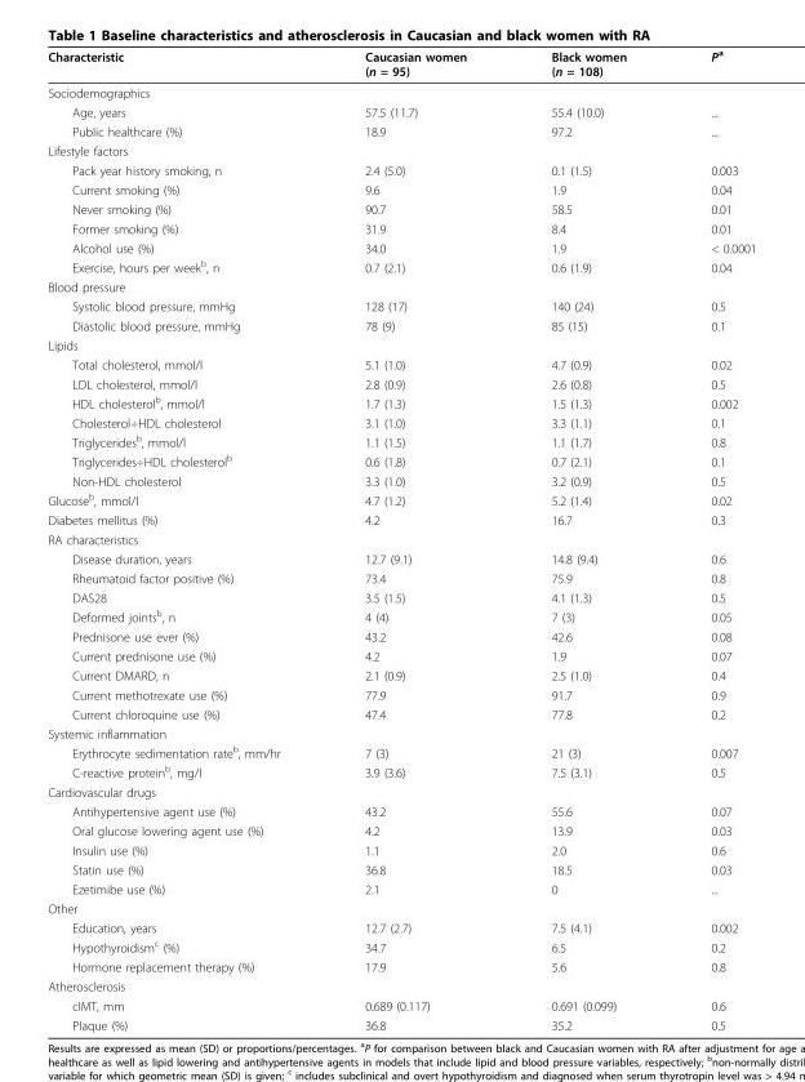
<table><thead><tr><td>Characteristic</td><td>Caucasian women (n = 95)</td><td>Black women (n = 108)</td><td>P<sup>a</sup></td></tr></thead><tbody><tr><td colspan="4">Sociodemographics</td></tr><tr><td>Age, years</td><td>57.5 (11.7)</td><td>55.4 (10.0)</td><td>...</td></tr><tr><td>Public healthcare (%)</td><td>18.9</td><td>97.2</td><td>...</td></tr><tr><td colspan="4">Lifestyle factors</td></tr><tr><td>Pack year history smoking, n</td><td>2.4 (5.0)</td><td>0.1 (1.5)</td><td>0.003</td></tr><tr><td>Current smoking (%)</td><td>9.6</td><td>1.9</td><td>0.04</td></tr><tr><td>Never smoking (%)</td><td>90.7</td><td>58.5</td><td>0.01</td></tr><tr><td>Former smoking (%)</td><td>31.9</td><td>8.4</td><td>0.01</td></tr><tr><td>Alcohol use (%)</td><td>34.0</td><td>1.9</td><td>&lt; 0.0001</td></tr><tr><td>Exercise, hours per week<sup>b</sup>, n</td><td>0.7 (2.1)</td><td>0.6 (1.9)</td><td>0.04</td></tr><tr><td colspan="4">Blood pressure</td></tr><tr><td>Systolic blood pressure, mmHg</td><td>128 (17)</td><td>140 (24)</td><td>0.5</td></tr><tr><td>Diastolic blood pressure, mmHg</td><td>78 (9)</td><td>85 (15)</td><td>0.1</td></tr><tr><td colspan="4">Lipids</td></tr><tr><td>Total cholesterol, mmol/l</td><td>5.1 (1.0)</td><td>4.7 (0.9)</td><td>0.02</td></tr><tr><td>LDL cholesterol, mmol/l</td><td>2.8 (0.9)</td><td>2.6 (0.8)</td><td>0.5</td></tr><tr><td>HDL cholesterol<sup>b</sup>, mmol/l</td><td>1.7 (1.3)</td><td>1.5 (1.3)</td><td>0.002</td></tr><tr><td>Cholesterol÷HDL cholesterol</td><td>3.1 (1.0)</td><td>3.3 (1.1)</td><td>0.1</td></tr><tr><td>Triglycerides<sup>b</sup>, mmol/l</td><td>1.1 (1.5)</td><td>1.1 (1.7)</td><td>0.8</td></tr><tr><td>Triglycerides÷HDL cholesterol<sup>b</sup></td><td>0.6 (1.8)</td><td>0.7 (2.1)</td><td>0.1</td></tr><tr><td>Non-HDL cholesterol</td><td>3.3 (1.0)</td><td>3.2 (0.9)</td><td>0.5</td></tr><tr><td>Glucose<sup>b</sup>, mmol/l</td><td>4.7 (1.2)</td><td>5.2 (1.4)</td><td>0.02</td></tr><tr><td>Diabetes mellitus (%)</td><td>4.2</td><td>16.7</td><td>0.3</td></tr><tr><td colspan="4">RA characteristics</td></tr><tr><td>Disease duration, years</td><td>12.7 (9.1)</td><td>14.8 (9.4)</td><td>0.6</td></tr><tr><td>Rheumatoid factor positive (%)</td><td>73.4</td><td>75.9</td><td>0.8</td></tr><tr><td>DAS28</td><td>3.5 (1.5)</td><td>4.1 (1.3)</td><td>0.5</td></tr><tr><td>Deformed joints<sup>b</sup>, n</td><td>4 (4)</td><td>7 (3)</td><td>0.05</td></tr><tr><td>Prednisone use ever (%)</td><td>43.2</td><td>42.6</td><td>0.08</td></tr><tr><td>Current prednisone use (%)</td><td>4.2</td><td>1.9</td><td>0.07</td></tr><tr><td>Current DMARD, n</td><td>2.1 (0.9)</td><td>2.5 (1.0)</td><td>0.4</td></tr><tr><td>Current methotrexate use (%)</td><td>77.9</td><td>91.7</td><td>0.9</td></tr><tr><td>Current chloroquine use (%)</td><td>47.4</td><td>77.8</td><td>0.2</td></tr><tr><td colspan="4">Systemic inflammation</td></tr><tr><td>Erythrocyte sedimentation rate<sup>b</sup>, mm/hr</td><td>7 (3)</td><td>21 (3)</td><td>0.007</td></tr><tr><td>C-reactive protein<sup>b</sup>, mg/l</td><td>3.9 (3.6)</td><td>7.5 (3.1)</td><td>0.5</td></tr><tr><td colspan="4">Cardiovascular drugs</td></tr><tr><td>Antihypertensive agent use (%)</td><td>43.2</td><td>55.6</td><td>0.07</td></tr><tr><td>Oral glucose lowering agent use (%)</td><td>4.2</td><td>13.9</td><td>0.03</td></tr><tr><td>Insulin use (%)</td><td>1.1</td><td>2.0</td><td>0.6</td></tr><tr><td>Statin use (%)</td><td>36.8</td><td>18.5</td><td>0.03</td></tr><tr><td>Ezetimibe use (%)</td><td>2.1</td><td>0</td><td>...</td></tr><tr><td colspan="4">Other</td></tr><tr><td>Education, years</td><td>12.7 (2.7)</td><td>7.5 (4.1)</td><td>0.002</td></tr><tr><td>Hypothyroidism<sup>c</sup> (%)</td><td>34.7</td><td>6.5</td><td>0.2</td></tr><tr><td>Hormone replacement therapy (%)</td><td>17.9</td><td>5.6</td><td>0.8</td></tr><tr><td colspan="4">Atherosclerosis</td></tr><tr><td>cIMT, mm</td><td>0.689 (0.117)</td><td>0.691 (0.099)</td><td>0.6</td></tr><tr><td>Plaque (%)</td><td>36.8</td><td>35.2</td><td>0.5</td></tr></tbody></table>